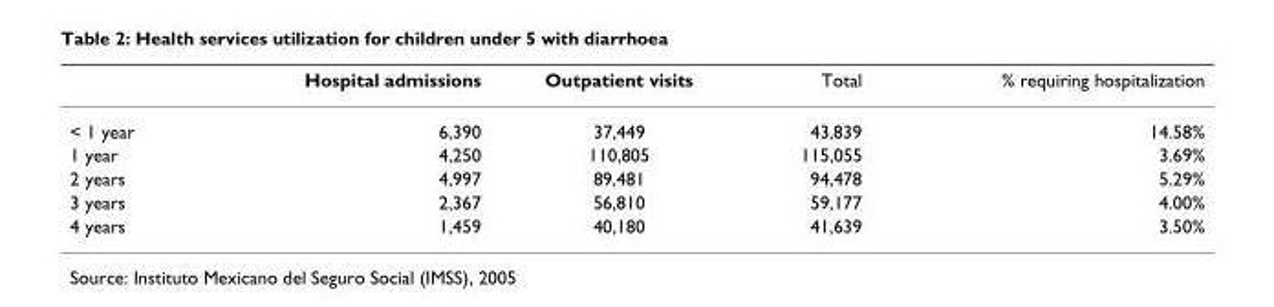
<table><thead><tr><td></td><td>Hospital admissions</td><td>Outpatient visits</td><td>Total</td><td>% requiring hospitalization</td></tr></thead><tbody><tr><td>&lt; 1 year</td><td>6,390</td><td>37,449</td><td>43,839</td><td>14.58%</td></tr><tr><td>1 year</td><td>4,250</td><td>110,805</td><td>115,055</td><td>3.69%</td></tr><tr><td>2 years</td><td>4,997</td><td>89,481</td><td>94,478</td><td>5.29%</td></tr><tr><td>3 years</td><td>2,367</td><td>56,810</td><td>59,177</td><td>4.00%</td></tr><tr><td>4 years</td><td>1,459</td><td>40,180</td><td>41,639</td><td>3.50%</td></tr></tbody></table>